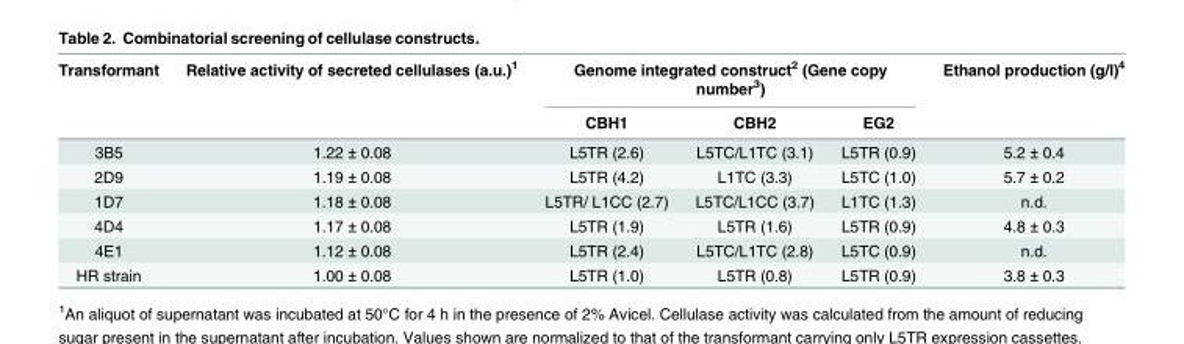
<table><thead><tr><td rowspan="2">Transformant</td><td rowspan="2">Relative activity of secreted cellulases (a.u.)<sup>1</sup></td><td colspan="3">Genome integrated construct<sup>2</sup> (Gene copy number<sup>3</sup>)</td><td rowspan="2">Ethanol production (g/l)<sup>4</sup></td></tr><tr><td>CBH1</td><td>CBH2</td><td>EG2</td></tr></thead><tbody><tr><td>3B5</td><td>1.22 ± 0.08</td><td>L5TR (2.6)</td><td>L5TC/L1TC (3.1)</td><td>L5TR (0.9)</td><td>5.2 ± 0.4</td></tr><tr><td>2D9</td><td>1.19 ± 0.08</td><td>L5TR (4.2)</td><td>L1TC (3.3)</td><td>L5TC (1.0)</td><td>5.7 ± 0.2</td></tr><tr><td>1D7</td><td>1.18 ± 0.08</td><td>L5TR/ L1CC (2.7)</td><td>L5TC/L1CC (3.7)</td><td>L1TC (1.3)</td><td>n.d.</td></tr><tr><td>4D4</td><td>1.17 ± 0.08</td><td>L5TR (1.9)</td><td>L5TR (1.6)</td><td>L5TR (0.9)</td><td>4.8 ± 0.3</td></tr><tr><td>4E1</td><td>1.12 ± 0.08</td><td>L5TR (2.4)</td><td>L5TC/L1TC (2.8)</td><td>L5TC (0.9)</td><td>n.d.</td></tr><tr><td>HR strain</td><td>1.00 ± 0.08</td><td>L5TR (1.0)</td><td>L5TR (0.8)</td><td>L5TR (0.9)</td><td>3.8 ± 0.3</td></tr></tbody></table>